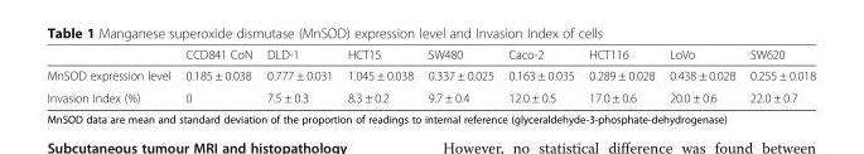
<table><thead><tr><td></td><td>CCD841 CoN</td><td>DLD-1</td><td>HCT15</td><td>SW480</td><td>Caco-2</td><td>HCT116</td><td>LoVo</td><td>SW620</td></tr></thead><tbody><tr><td>MnSOD expression level</td><td>0.185 ± 0.038</td><td>0.777 ± 0.031</td><td>1.045 ± 0.038</td><td>0.337 ± 0.025</td><td>0.163 ± 0.035</td><td>0.289 ± 0.028</td><td>0.438 ± 0.028</td><td>0.255 ± 0.018</td></tr><tr><td>Invasion Index (%)</td><td>0</td><td>7.5 ± 0.3</td><td>8.3 ± 0.2</td><td>9.7 ± 0.4</td><td>12.0 ± 0.5</td><td>17.0 ± 0.6</td><td>20.0 ± 0.6</td><td>22.0 ± 0.7</td></tr></tbody></table>